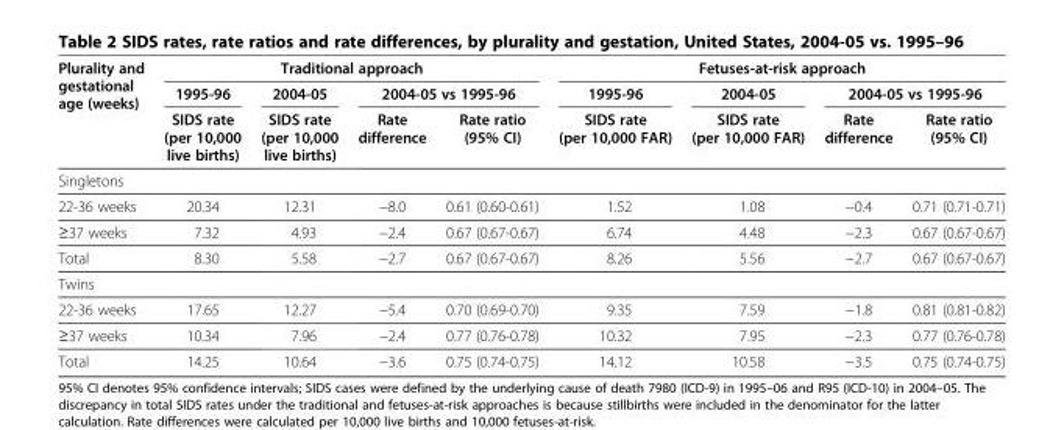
<table><thead><tr><td rowspan="3">Plurality and gestational age (weeks)</td><td colspan="4">Traditional approach</td><td colspan="4">Fetuses-at-risk approach</td></tr><tr><td rowspan="2">1995-96 SIDS rate (per 10,000 live births)</td><td rowspan="2">2004-05 SIDS rate (per 10,000 live births)</td><td colspan="2">2004-05 vs 1995-96</td><td rowspan="2">1995-96 SIDS rate (per 10,000 FAR)</td><td rowspan="2">2004-05 SIDS rate (per 10,000 FAR)</td><td colspan="2">2004-05 vs 1995-96</td></tr><tr><td>Rate difference</td><td>Rate ratio (95% CI)</td><td>Rate difference</td><td>Rate ratio (95% CI)</td></tr></thead><tbody><tr><td colspan="9">Singletons</td></tr><tr><td>22-36 weeks</td><td>20.34</td><td>12.31</td><td>−8.0</td><td>0.61 (0.60-0.61)</td><td>1.52</td><td>1.08</td><td>−0.4</td><td>0.71 (0.71-0.71)</td></tr><tr><td>≥37 weeks</td><td>7.32</td><td>4.93</td><td>−2.4</td><td>0.67 (0.67-0.67)</td><td>6.74</td><td>4.48</td><td>−2.3</td><td>0.67 (0.67-0.67)</td></tr><tr><td>Total</td><td>8.30</td><td>5.58</td><td>−2.7</td><td>0.67 (0.67-0.67)</td><td>8.26</td><td>5.56</td><td>−2.7</td><td>0.67 (0.67-0.67)</td></tr><tr><td colspan="9">Twins</td></tr><tr><td>22-36 weeks</td><td>17.65</td><td>12.27</td><td>−5.4</td><td>0.70 (0.69-0.70)</td><td>9.35</td><td>7.59</td><td>−1.8</td><td>0.81 (0.81-0.82)</td></tr><tr><td>≥37 weeks</td><td>10.34</td><td>7.96</td><td>−2.4</td><td>0.77 (0.76-0.78)</td><td>10.32</td><td>7.95</td><td>−2.3</td><td>0.77 (0.76-0.78)</td></tr><tr><td>Total</td><td>14.25</td><td>10.64</td><td>−3.6</td><td>0.75 (0.74-0.75)</td><td>14.12</td><td>10.58</td><td>−3.5</td><td>0.75 (0.74-0.75)</td></tr></tbody></table>